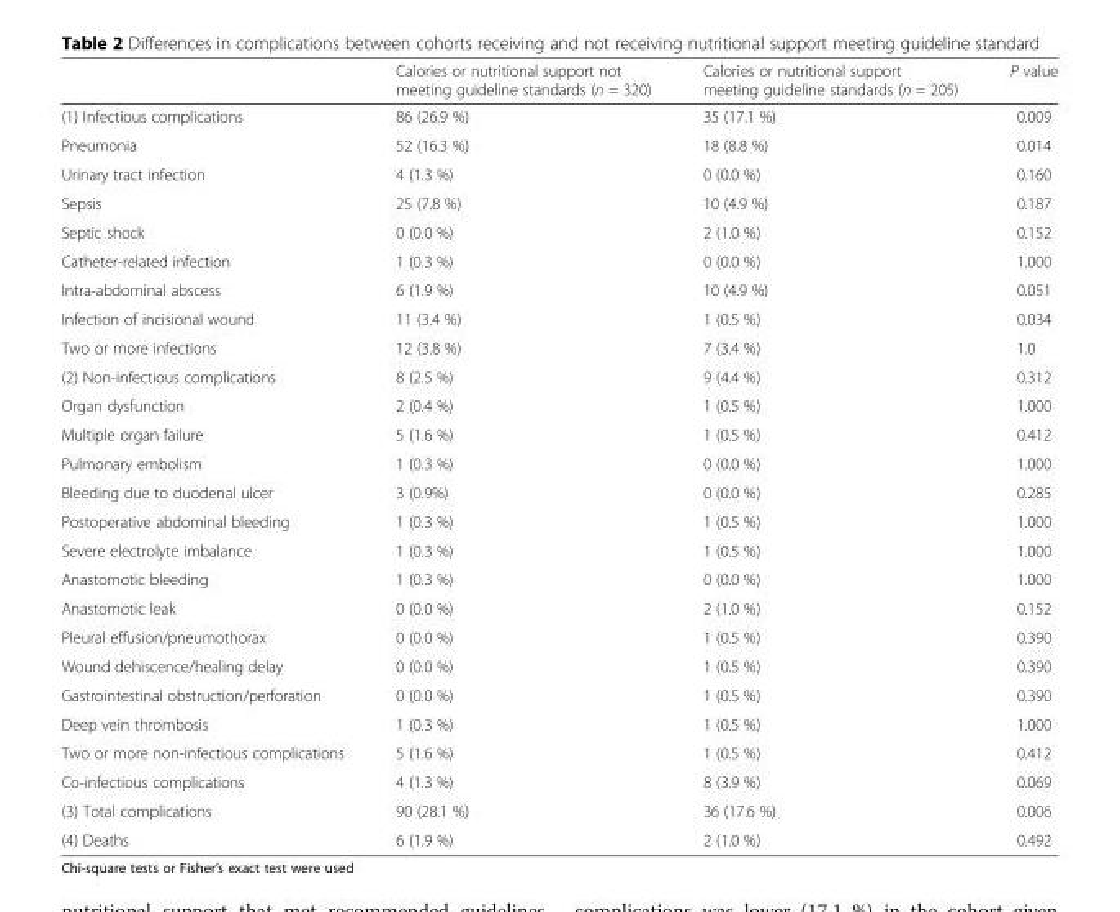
<table><thead><tr><td></td><td>Calories or nutritional support not meeting guideline standards (n = 320)</td><td>Calories or nutritional support meeting guideline standards (n = 205)</td><td>P value</td></tr></thead><tbody><tr><td>(1) Infectious complications</td><td>86 (26.9 %)</td><td>35 (17.1 %)</td><td>0.009</td></tr><tr><td>Pneumonia</td><td>52 (16.3 %)</td><td>18 (8.8 %)</td><td>0.014</td></tr><tr><td>Urinary tract infection</td><td>4 (1.3 %)</td><td>0 (0.0 %)</td><td>0.160</td></tr><tr><td>Sepsis</td><td>25 (7.8 %)</td><td>10 (4.9 %)</td><td>0.187</td></tr><tr><td>Septic shock</td><td>0 (0.0 %)</td><td>2 (1.0 %)</td><td>0.152</td></tr><tr><td>Catheter-related infection</td><td>1 (0.3 %)</td><td>0 (0.0 %)</td><td>1.000</td></tr><tr><td>Intra-abdominal abscess</td><td>6 (1.9 %)</td><td>10 (4.9 %)</td><td>0.051</td></tr><tr><td>Infection of incisional wound</td><td>11 (3.4 %)</td><td>1 (0.5 %)</td><td>0.034</td></tr><tr><td>Two or more infections</td><td>12 (3.8 %)</td><td>7 (3.4 %)</td><td>1.0</td></tr><tr><td>(2) Non-infectious complications</td><td>8 (2.5 %)</td><td>9 (4.4 %)</td><td>0.312</td></tr><tr><td>Organ dysfunction</td><td>2 (0.4 %)</td><td>1 (0.5 %)</td><td>1.000</td></tr><tr><td>Multiple organ failure</td><td>5 (1.6 %)</td><td>1 (0.5 %)</td><td>0.412</td></tr><tr><td>Pulmonary embolism</td><td>1 (0.3 %)</td><td>0 (0.0 %)</td><td>1.000</td></tr><tr><td>Bleeding due to duodenal ulcer</td><td>3 (0.9%)</td><td>0 (0.0 %)</td><td>0.285</td></tr><tr><td>Postoperative abdominal bleeding</td><td>1 (0.3 %)</td><td>1 (0.5 %)</td><td>1.000</td></tr><tr><td>Severe electrolyte imbalance</td><td>1 (0.3 %)</td><td>1 (0.5 %)</td><td>1.000</td></tr><tr><td>Anastomotic bleeding</td><td>1 (0.3 %)</td><td>0 (0.0 %)</td><td>1.000</td></tr><tr><td>Anastomotic leak</td><td>0 (0.0 %)</td><td>2 (1.0 %)</td><td>0.152</td></tr><tr><td>Pleural effusion/pneumothorax</td><td>0 (0.0 %)</td><td>1 (0.5 %)</td><td>0.390</td></tr><tr><td>Wound dehiscence/healing delay</td><td>0 (0.0 %)</td><td>1 (0.5 %)</td><td>0.390</td></tr><tr><td>Gastrointestinal obstruction/perforation</td><td>0 (0.0 %)</td><td>1 (0.5 %)</td><td>0.390</td></tr><tr><td>Deep vein thrombosis</td><td>1 (0.3 %)</td><td>1 (0.5 %)</td><td>1.000</td></tr><tr><td>Two or more non-infectious complications</td><td>5 (1.6 %)</td><td>1 (0.5 %)</td><td>0.412</td></tr><tr><td>Co-infectious complications</td><td>4 (1.3 %)</td><td>8 (3.9 %)</td><td>0.069</td></tr><tr><td>(3) Total complications</td><td>90 (28.1 %)</td><td>36 (17.6 %)</td><td>0.006</td></tr><tr><td>(4) Deaths</td><td>6 (1.9 %)</td><td>2 (1.0 %)</td><td>0.492</td></tr></tbody></table>